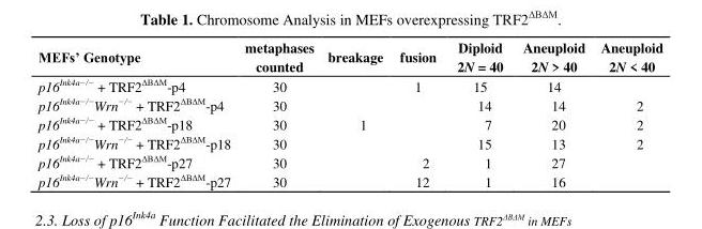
<table><thead><tr><td>MEFs’ Genotype</td><td>metaphases counted</td><td>breakage</td><td>fusion</td><td>Diploid 2N = 40</td><td>Aneuploid 2N &gt; 40</td><td>Aneuploid 2N &lt; 40</td></tr></thead><tbody><tr><td>p16<sup>Ink4a−/−</sup> + TRF2<sup>ΔBΔM</sup>-p4</td><td>30</td><td></td><td>1</td><td>15</td><td>14</td><td></td></tr><tr><td>p16<sup>Ink4a−/−</sup>Wrn<sup>−/−</sup> + TRF2<sup>ΔBΔM</sup>-p4</td><td>30</td><td></td><td></td><td>14</td><td>14</td><td>2</td></tr><tr><td>p16<sup>Ink4a−/−</sup> + TRF2<sup>ΔBΔM</sup>-p18</td><td>30</td><td>1</td><td></td><td>7</td><td>20</td><td>2</td></tr><tr><td>p16<sup>Ink4a−/−</sup>Wrn<sup>−/−</sup> + TRF2<sup>ΔBΔM</sup>-p18</td><td>30</td><td></td><td></td><td>15</td><td>13</td><td>2</td></tr><tr><td>p16<sup>Ink4a−/−</sup> + TRF2<sup>ΔBΔM</sup>-p27</td><td>30</td><td></td><td>2</td><td>1</td><td>27</td><td></td></tr><tr><td>p16<sup>Ink4a−/−</sup>Wrn<sup>−/−</sup> + TRF2<sup>ΔBΔM</sup>-p27</td><td>30</td><td></td><td>12</td><td>1</td><td>16</td><td></td></tr></tbody></table>